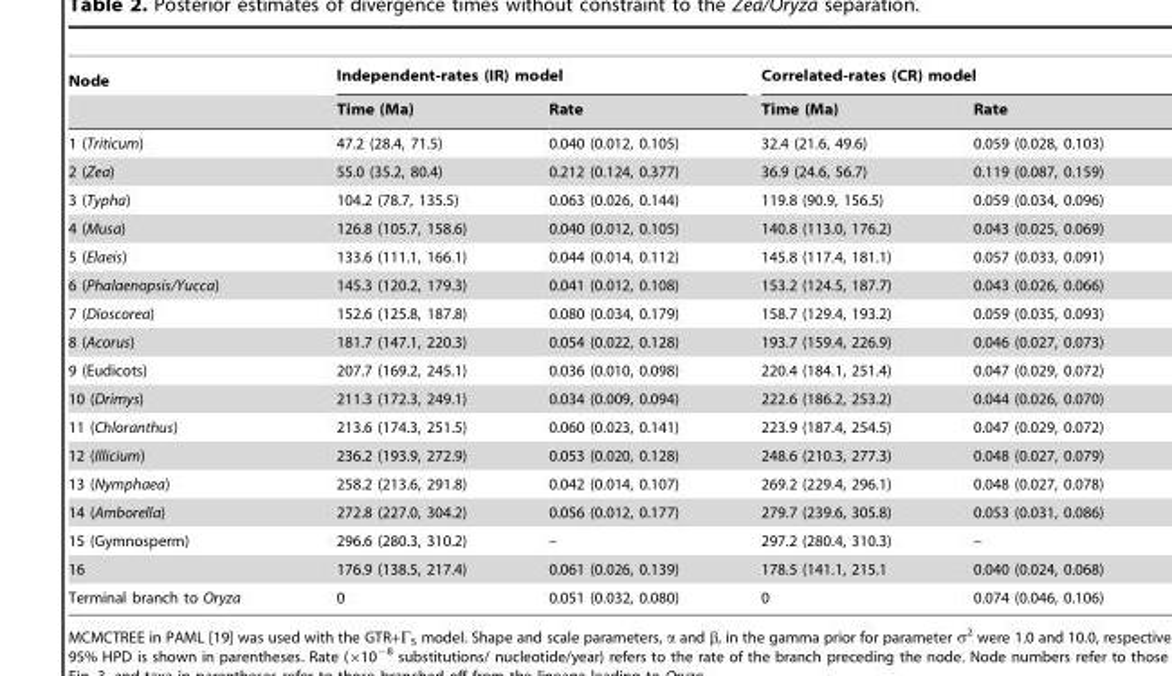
<table><thead><tr><td rowspan="2">Node</td><td colspan="2">Independent-rates (IR) model</td><td colspan="2">Correlated-rates (CR) model</td></tr><tr><td>Time (Ma)</td><td>Rate</td><td>Time (Ma)</td><td>Rate</td></tr></thead><tbody><tr><td>1 (Triticum)</td><td>47.2 (28.4, 71.5)</td><td>0.040 (0.012, 0.105)</td><td>32.4 (21.6, 49.6)</td><td>0.059 (0.028, 0.103)</td></tr><tr><td>2 (Zea)</td><td>55.0 (35.2, 80.4)</td><td>0.212 (0.124, 0.377)</td><td>36.9 (24.6, 56.7)</td><td>0.119 (0.087, 0.159)</td></tr><tr><td>3 (Typha)</td><td>104.2 (78.7, 135.5)</td><td>0.063 (0.026, 0.144)</td><td>119.8 (90.9, 156.5)</td><td>0.059 (0.034, 0.096)</td></tr><tr><td>4 (Musa)</td><td>126.8 (105.7, 158.6)</td><td>0.040 (0.012, 0.105)</td><td>140.8 (113.0, 176.2)</td><td>0.043 (0.025, 0.069)</td></tr><tr><td>5 (Elaeis)</td><td>133.6 (111.1, 166.1)</td><td>0.044 (0.014, 0.112)</td><td>145.8 (117.4, 181.1)</td><td>0.057 (0.033, 0.091)</td></tr><tr><td>6 (Phalaenopsis/Yucca)</td><td>145.3 (120.2, 179.3)</td><td>0.041 (0.012, 0.108)</td><td>153.2 (124.5, 187.7)</td><td>0.043 (0.026, 0.066)</td></tr><tr><td>7 (Dioscorea)</td><td>152.6 (125.8, 187.8)</td><td>0.080 (0.034, 0.179)</td><td>158.7 (129.4, 193.2)</td><td>0.059 (0.035, 0.093)</td></tr><tr><td>8 (Acorus)</td><td>181.7 (147.1, 220.3)</td><td>0.054 (0.022, 0.128)</td><td>193.7 (159.4, 226.9)</td><td>0.046 (0.027, 0.073)</td></tr><tr><td>9 (Eudicots)</td><td>207.7 (169.2, 245.1)</td><td>0.036 (0.010, 0.098)</td><td>220.4 (184.1, 251.4)</td><td>0.047 (0.029, 0.072)</td></tr><tr><td>10 (Drimys)</td><td>211.3 (172.3, 249.1)</td><td>0.034 (0.009, 0.094)</td><td>222.6 (186.2, 253.2)</td><td>0.044 (0.026, 0.070)</td></tr><tr><td>11 (Chloranthus)</td><td>213.6 (174.3, 251.5)</td><td>0.060 (0.023, 0.141)</td><td>223.9 (187.4, 254.5)</td><td>0.047 (0.029, 0.072)</td></tr><tr><td>12 (Illicium)</td><td>236.2 (193.9, 272.9)</td><td>0.053 (0.020, 0.128)</td><td>248.6 (210.3, 277.3)</td><td>0.048 (0.027, 0.079)</td></tr><tr><td>13 (Nymphaea)</td><td>258.2 (213.6, 291.8)</td><td>0.042 (0.014, 0.107)</td><td>269.2 (229.4, 296.1)</td><td>0.048 (0.027, 0.078)</td></tr><tr><td>14 (Amborella)</td><td>272.8 (227.0, 304.2)</td><td>0.056 (0.012, 0.177)</td><td>279.7 (239.6, 305.8)</td><td>0.053 (0.031, 0.086)</td></tr><tr><td>15 (Gymnosperm)</td><td>296.6 (280.3, 310.2)</td><td>–</td><td>297.2 (280.4, 310.3)</td><td>–</td></tr><tr><td>16</td><td>176.9 (138.5, 217.4)</td><td>0.061 (0.026, 0.139)</td><td>178.5 (141.1, 215.1</td><td>0.040 (0.024, 0.068)</td></tr><tr><td>Terminal branch to Oryza</td><td>0</td><td>0.051 (0.032, 0.080)</td><td>0</td><td>0.074 (0.046, 0.106)</td></tr></tbody></table>